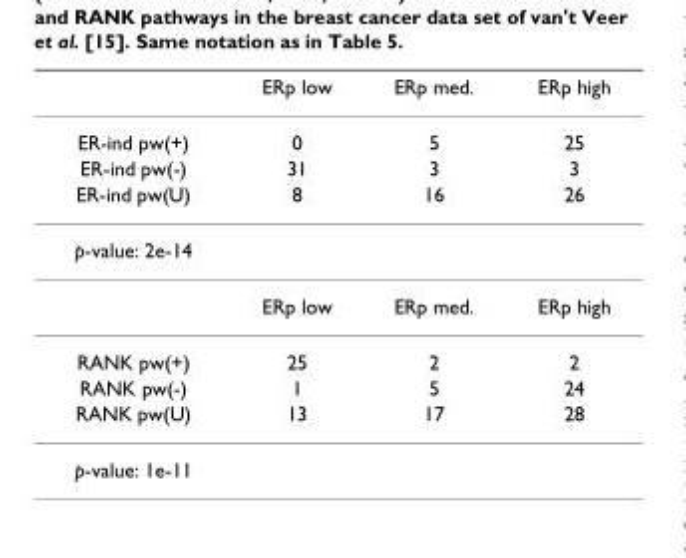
<table><thead><tr><td></td><td>ERp low</td><td>ERp med.</td><td>ERp high</td></tr></thead><tbody><tr><td>ER-ind pw(+)</td><td>0</td><td>5</td><td>25</td></tr><tr><td>ER-ind pw(-)</td><td>31</td><td>3</td><td>3</td></tr><tr><td>ER-ind pw(U)</td><td>8</td><td>16</td><td>26</td></tr><tr><td colspan="4">p-value: 2e-14</td></tr><tr><td></td><td>ERp low</td><td>ERp med.</td><td>ERp high</td></tr><tr><td>RANK pw(+)</td><td>25</td><td>2</td><td>2</td></tr><tr><td>RANK pw(-)</td><td>1</td><td>5</td><td>24</td></tr><tr><td>RANK pw(U)</td><td>13</td><td>17</td><td>28</td></tr><tr><td>p-value: 1e-11</td><td></td><td></td><td></td></tr></tbody></table>